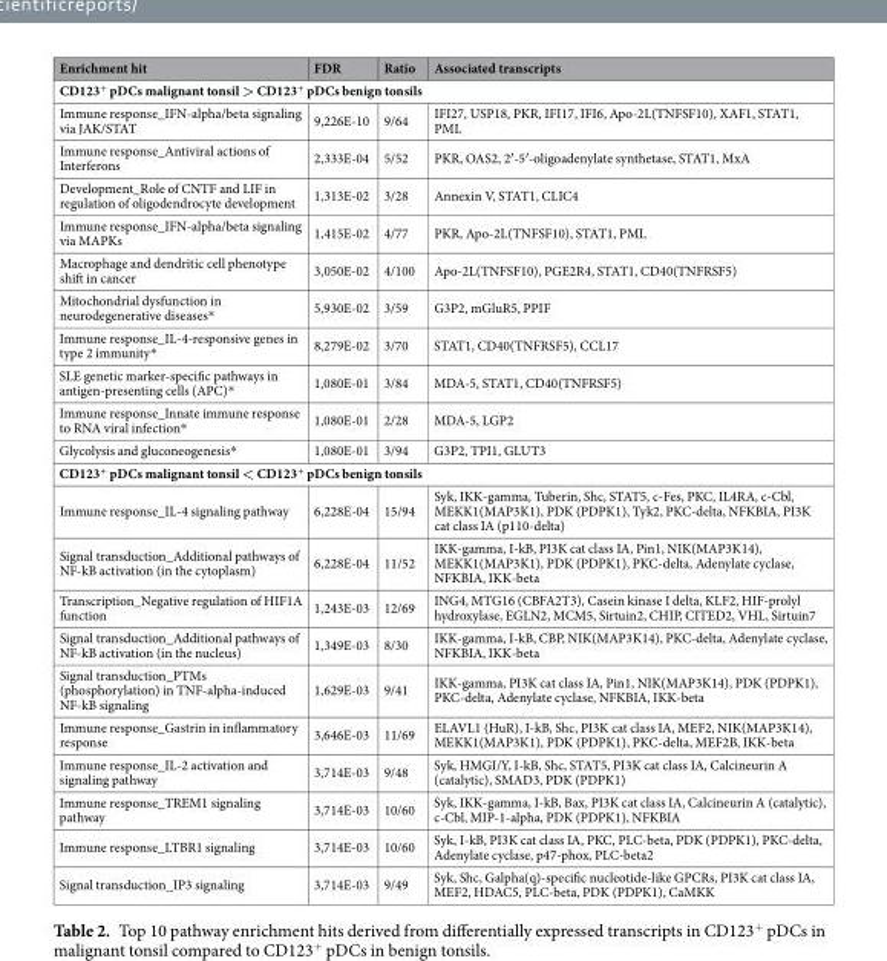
<table><thead><tr><td>Enrichment hit</td><td>FDR</td><td>Ratio</td><td>Associated transcripts</td></tr></thead><tbody><tr><td colspan="4">CD123<sup>+</sup> pDCs malignant tonsil &gt; CD123<sup>+</sup> pDCs benign tonsils</td></tr><tr><td>Immune response_IFN-alpha/beta signaling via JAK/STAT</td><td>9,226E-10</td><td>9/64</td><td>IFI27, USP18, PKR, IFI17, IFI6, Apo-2L(TNFSF10), XAF1, STAT1, PML</td></tr><tr><td>Immune response_Antiviral actions of Interferons</td><td>2,333E-04</td><td>5/52</td><td>PKR, OAS2, 2′-5′-oligoadenylate synthetase, STAT1, MxA</td></tr><tr><td>Development_Role of CNTF and LIF in regulation of oligodendrocyte development</td><td>1,313E-02</td><td>3/28</td><td>Annexin V, STAT1, CLIC4</td></tr><tr><td>Immune response_IFN-alpha/beta signaling via MAPKs</td><td>1,415E-02</td><td>4/77</td><td>PKR, Apo-2L(TNFSF10), STAT1, PML</td></tr><tr><td>Macrophage and dendritic cell phenotype shift in cancer</td><td>3,050E-02</td><td>4/100</td><td>Apo-2L(TNFSF10), PGE2R4, STAT1, CD40(TNFRSF5)</td></tr><tr><td>Mitochondrial dysfunction in neurodegenerative diseases*</td><td>5,930E-02</td><td>3/59</td><td>G3P2, mGluR5, PPIF</td></tr><tr><td>Immune response_IL-4-responsive genes in type 2 immunity*</td><td>8,279E-02</td><td>3/70</td><td>STAT1, CD40(TNFRSF5), CCL17</td></tr><tr><td>SLE genetic marker-specific pathways in antigen-presenting cells (APC)*</td><td>1,080E-01</td><td>3/84</td><td>MDA-5, STAT1, CD40(TNFRSF5)</td></tr><tr><td>Immune response_Innate immune response to RNA viral infection*</td><td>1,080E-01</td><td>2/28</td><td>MDA-5, LGP2</td></tr><tr><td>Glycolysis and gluconeogenesis*</td><td>1,080E-01</td><td>3/94</td><td>G3P2, TPI1, GLUT3</td></tr><tr><td colspan="4">CD123<sup>+</sup> pDCs malignant tonsil &lt; CD123<sup>+</sup> pDCs benign tonsils</td></tr><tr><td>Immune response_IL-4 signaling pathway</td><td>6,228E-04</td><td>15/94</td><td>Syk, IKK-gamma, Tuberin, Shc, STAT5, c-Fes, PKC, IL4RA, c-Cbl, MEKK1(MAP3K1), PDK (PDPK1), Tyk2, PKC-delta, NFKBIA, PI3K cat class IA (p110-delta)</td></tr><tr><td>Signal transduction_Additional pathways of NF-kB activation (in the cytoplasm)</td><td>6,228E-04</td><td>11/52</td><td>IKK-gamma, I-kB, PI3K cat class IA, Pin1, NIK(MAP3K14), MEKK1(MAP3K1), PDK (PDPK1), PKC-delta, Adenylate cyclase, NFKBIA, IKK-beta</td></tr><tr><td>Transcription_Negative regulation of HIF1A function</td><td>1,243E-03</td><td>12/69</td><td>ING4, MTG16 (CBFA2T3), Casein kinase I delta, KLF2, HIF-prolyl hydroxylase, EGLN2, MCM5, Sirtuin2, CHIP, CITED2, VHL, Sirtuin7</td></tr><tr><td>Signal transduction_Additional pathways of NF-kB activation (in the nucleus)</td><td>1,349E-03</td><td>8/30</td><td>IKK-gamma, I-kB, CBP, NIK(MAP3K14), PKC-delta, Adenylate cyclase, NFKBIA, IKK-beta</td></tr><tr><td>Signal transduction_PTMs (phosphorylation) in TNF-alpha-induced NF-kB signaling</td><td>1,629E-03</td><td>9/41</td><td>IKK-gamma, PI3K cat class IA, Pin1, NIK(MAP3K14), PDK (PDPK1), PKC-delta, Adenylate cyclase, NFKBIA, IKK-beta</td></tr><tr><td>Immune response_Gastrin in inflammatory response</td><td>3,646E-03</td><td>11/69</td><td>ELAVL1 (HuR), I-kB, Shc, PI3K cat class IA, MEF2, NIK(MAP3K14), MEKK1(MAP3K1), PDK (PDPK1), PKC-delta, MEF2B, IKK-beta</td></tr><tr><td>Immune response_IL-2 activation and signaling pathway</td><td>3,714E-03</td><td>9/48</td><td>Syk, HMGI/Y, I-kB, Shc, STAT5, PI3K cat class IA, Calcineurin A (catalytic), SMAD3, PDK (PDPK1)</td></tr><tr><td>Immune response_TREM1 signaling pathway</td><td>3,714E-03</td><td>10/60</td><td>Syk, IKK-gamma, I-kB, Bax, PI3K cat class IA, Calcineurin A (catalytic), c-Cbl, MIP-1-alpha, PDK (PDPK1), NFKBIA</td></tr><tr><td>Immune response_LTBR1 signaling</td><td>3,714E-03</td><td>10/60</td><td>Syk, I-kB, PI3K cat class IA, PKC, PLC-beta, PDK (PDPK1), PKC-delta, Adenylate cyclase, p47-phox, PLC-beta2</td></tr><tr><td>Signal transduction_IP3 signaling</td><td>3,714E-03</td><td>9/49</td><td>Syk, Shc, Galpha(q)-specific nucleotide-like GPCRs, PI3K cat class IA, MEF2, HDAC5, PLC-beta, PDK (PDPK1), CaMKK</td></tr></tbody></table>